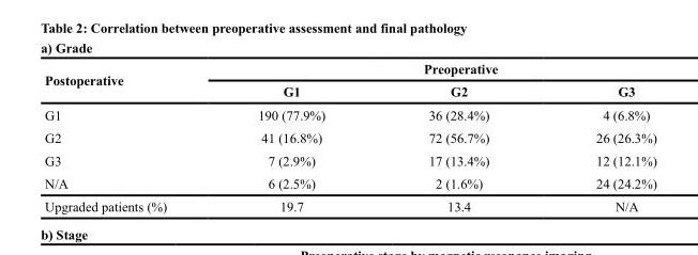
<table><thead><tr><td colspan="4">a) Grade</td></tr><tr><td rowspan="2">Postoperative</td><td colspan="3">Preoperative</td></tr><tr><td>G1</td><td>G2</td><td>G3</td></tr></thead><tbody><tr><td>G1</td><td>190 (77.9%)</td><td>36 (28.4%)</td><td>4 (6.8%)</td></tr><tr><td>G2</td><td>41 (16.8%)</td><td>72 (56.7%)</td><td>26 (26.3%)</td></tr><tr><td>G3</td><td>7 (2.9%)</td><td>17 (13.4%)</td><td>12 (12.1%)</td></tr><tr><td>N/A</td><td>6 (2.5%)</td><td>2 (1.6%)</td><td>24 (24.2%)</td></tr><tr><td>Upgraded patients (%)</td><td>19.7</td><td>13.4</td><td>N/A</td></tr></tbody></table>